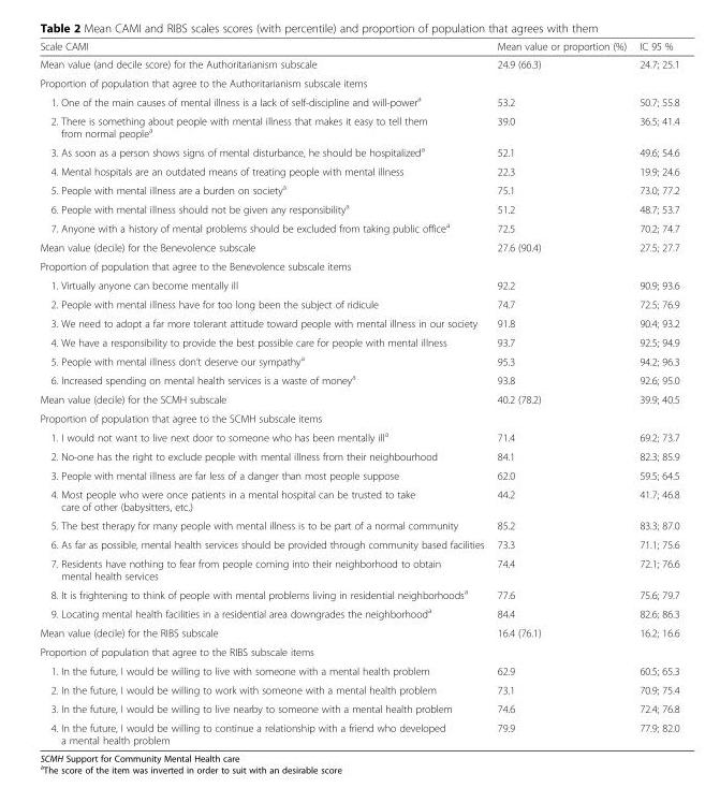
<table><thead><tr><td>Scale CAMI</td><td>Mean value or proportion (%)</td><td>IC 95 %</td></tr></thead><tbody><tr><td>Mean value (and decile score) for the Authoritarianism subscale</td><td>24.9 (66.3)</td><td>24.7; 25.1</td></tr><tr><td colspan="3">Proportion of population that agree to the Authoritarianism subscale items</td></tr><tr><td>1. One of the main causes of mental illness is a lack of self-discipline and will-power<sup>a</sup></td><td>53.2</td><td>50.7; 55.8</td></tr><tr><td>2. There is something about people with mental illness that makes it easy to tell them from normal people<sup>a</sup></td><td>39.0</td><td>36.5; 41.4</td></tr><tr><td>3. As soon as a person shows signs of mental disturbance, he should be hospitalized<sup>a</sup></td><td>52.1</td><td>49.6; 54.6</td></tr><tr><td>4. Mental hospitals are an outdated means of treating people with mental illness</td><td>22.3</td><td>19.9; 24.6</td></tr><tr><td>5. People with mental illness are a burden on society<sup>a</sup></td><td>75.1</td><td>73.0; 77.2</td></tr><tr><td>6. People with mental illness should not be given any responsibility<sup>a</sup></td><td>51.2</td><td>48.7; 53.7</td></tr><tr><td>7. Anyone with a history of mental problems should be excluded from taking public office<sup>a</sup></td><td>72.5</td><td>70.2; 74.7</td></tr><tr><td>Mean value (decile) for the Benevolence subscale</td><td>27.6 (90.4)</td><td>27.5; 27.7</td></tr><tr><td colspan="3">Proportion of population that agree to the Benevolence subscale items</td></tr><tr><td>1. Virtually anyone can become mentally ill</td><td>92.2</td><td>90.9; 93.6</td></tr><tr><td>2. People with mental illness have for too long been the subject of ridicule</td><td>74.7</td><td>72.5; 76.9</td></tr><tr><td>3. We need to adopt a far more tolerant attitude toward people with mental illness in our society</td><td>91.8</td><td>90.4; 93.2</td></tr><tr><td>4. We have a responsibility to provide the best possible care for people with mental illness</td><td>93.7</td><td>92.5; 94.9</td></tr><tr><td>5. People with mental illness don’t deserve our sympathy<sup>a</sup></td><td>95.3</td><td>94.2; 96.3</td></tr><tr><td>6. Increased spending on mental health services is a waste of money<sup>a</sup></td><td>93.8</td><td>92.6; 95.0</td></tr><tr><td>Mean value (decile) for the SCMH subscale</td><td>40.2 (78.2)</td><td>39.9; 40.5</td></tr><tr><td colspan="3">Proportion of population that agree to the SCMH subscale items</td></tr><tr><td>1. I would not want to live next door to someone who has been mentally ill<sup>a</sup></td><td>71.4</td><td>69.2; 73.7</td></tr><tr><td>2. No-one has the right to exclude people with mental illness from their neighbourhood</td><td>84.1</td><td>82.3; 85.9</td></tr><tr><td>3. People with mental illness are far less of a danger than most people suppose</td><td>62.0</td><td>59.5; 64.5</td></tr><tr><td>4. Most people who were once patients in a mental hospital can be trusted to take care of other (babysitters, etc.)</td><td>44.2</td><td>41.7; 46.8</td></tr><tr><td>5. The best therapy for many people with mental illness is to be part of a normal community</td><td>85.2</td><td>83.3; 87.0</td></tr><tr><td>6. As far as possible, mental health services should be provided through community based facilities</td><td>73.3</td><td>71.1; 75.6</td></tr><tr><td>7. Residents have nothing to fear from people coming into their neighborhood to obtain mental health services</td><td>74.4</td><td>72.1; 76.6</td></tr><tr><td>8. It is frightening to think of people with mental problems living in residential neighborhoods<sup>a</sup></td><td>77.6</td><td>75.6; 79.7</td></tr><tr><td>9. Locating mental health facilities in a residential area downgrades the neighborhood<sup>a</sup></td><td>84.4</td><td>82.6; 86.3</td></tr><tr><td>Mean value (decile) for the RIBS subscale</td><td>16.4 (76.1)</td><td>16.2; 16.6</td></tr><tr><td colspan="3">Proportion of population that agree to the RIBS subscale items</td></tr><tr><td>1. In the future, I would be willing to live with someone with a mental health problem</td><td>62.9</td><td>60.5; 65.3</td></tr><tr><td>2. In the future, I would be willing to work with someone with a mental health problem</td><td>73.1</td><td>70.9; 75.4</td></tr><tr><td>3. In the future, I would be willing to live nearby to someone with a mental health problem</td><td>74.6</td><td>72.4; 76.8</td></tr><tr><td>4. In the future, I would be willing to continue a relationship with a friend who developed a mental health problem</td><td>79.9</td><td>77.9; 82.0</td></tr></tbody></table>